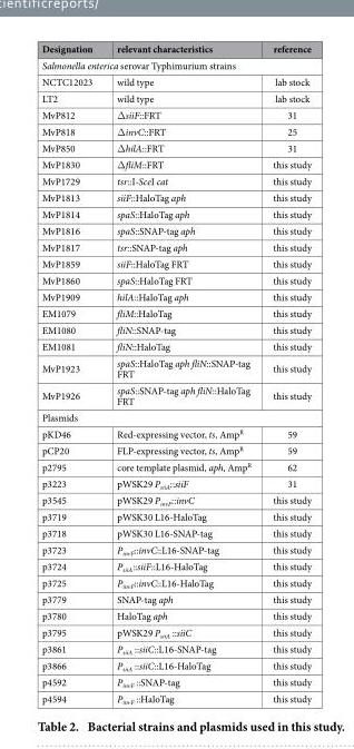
<table><thead><tr><td>Designation</td><td>relevant characteristics</td><td>reference</td></tr></thead><tbody><tr><td colspan="3">Salmonella enterica serovar Typhimurium strains</td></tr><tr><td>NCTC12023</td><td>wild type</td><td>lab stock</td></tr><tr><td>LT2</td><td>wild type</td><td>lab stock</td></tr><tr><td>MvP812</td><td>Δ siiF::FRT</td><td>31</td></tr><tr><td>MvP818</td><td>Δ invC::FRT</td><td>25</td></tr><tr><td>MvP850</td><td>Δ hilA::FRT</td><td>31</td></tr><tr><td>MvP1830</td><td>Δ fliM::FRT</td><td>this study</td></tr><tr><td>MvP1729</td><td>tsr::I-SceI cat</td><td>this study</td></tr><tr><td>MvP1813</td><td>siiF::HaloTag aph</td><td>this study</td></tr><tr><td>MvP1814</td><td>spaS::HaloTag aph</td><td>this study</td></tr><tr><td>MvP1816</td><td>spaS::SNAP-tag aph</td><td>this study</td></tr><tr><td>MvP1817</td><td>tsr::SNAP-tag aph</td><td>this study</td></tr><tr><td>MvP1859</td><td>siiF::HaloTag FRT</td><td>this study</td></tr><tr><td>MvP1860</td><td>spaS::HaloTag FRT</td><td>this study</td></tr><tr><td>MvP1909</td><td>hilA::HaloTag aph</td><td>this study</td></tr><tr><td>EM1079</td><td>fliM::HaloTag</td><td>this study</td></tr><tr><td>EM1080</td><td>fliN::SNAP-tag</td><td>this study</td></tr><tr><td>EM1081</td><td>fliN::HaloTag</td><td>this study</td></tr><tr><td>MvP1923</td><td>spaS::HaloTag aph fliN::SNAP-tag FRT</td><td>this study</td></tr><tr><td>MvP1926</td><td>spaS::SNAP-tag aph fliN::HaloTag FRT</td><td>this study</td></tr><tr><td colspan="3">Plasmids</td></tr><tr><td>pKD46</td><td>Red-expressing vector, ts, Amp<sup>R</sup></td><td>59</td></tr><tr><td>pCP20</td><td>FLP-expressing vector, ts, Amp<sup>R</sup></td><td>59</td></tr><tr><td>p2795</td><td>core template plasmid, aph, Amp<sup>R</sup></td><td>62</td></tr><tr><td>p3223</td><td>pWSK29 P<sub>siiA</sub>::siiF</td><td>31</td></tr><tr><td>p3545</td><td>pWSK29 P<sub>invF</sub>::invC</td><td>this study</td></tr><tr><td>p3719</td><td>pWSK30 L16-HaloTag</td><td>this study</td></tr><tr><td>p3718</td><td>pWSK30 L16-SNAP-tag</td><td>this study</td></tr><tr><td>p3723</td><td>P<sub>invF</sub>::invC::L16-SNAP-tag</td><td>this study</td></tr><tr><td>p3724</td><td>P<sub>siiA</sub>::siiF::L16-HaloTag</td><td>this study</td></tr><tr><td>p3725</td><td>P<sub>invF</sub>::invC::L16-HaloTag</td><td>this study</td></tr><tr><td>p3779</td><td>SNAP-tag aph</td><td>this study</td></tr><tr><td>p3780</td><td>HaloTag aph</td><td>this study</td></tr><tr><td>p3795</td><td>pWSK29 P<sub>siiA</sub> ::siiC</td><td>this study</td></tr><tr><td>p3861</td><td>P<sub>siiA</sub> ::siiC::L16-SNAP-tag</td><td>this study</td></tr><tr><td>p3866</td><td>P<sub>siiA</sub> ::siiC::L16-HaloTag</td><td>this study</td></tr><tr><td>p4592</td><td>P<sub>invF</sub> ::SNAP-tag</td><td>this study</td></tr><tr><td>p4594</td><td>P<sub>invF</sub> ::HaloTag</td><td>this study</td></tr></tbody></table>